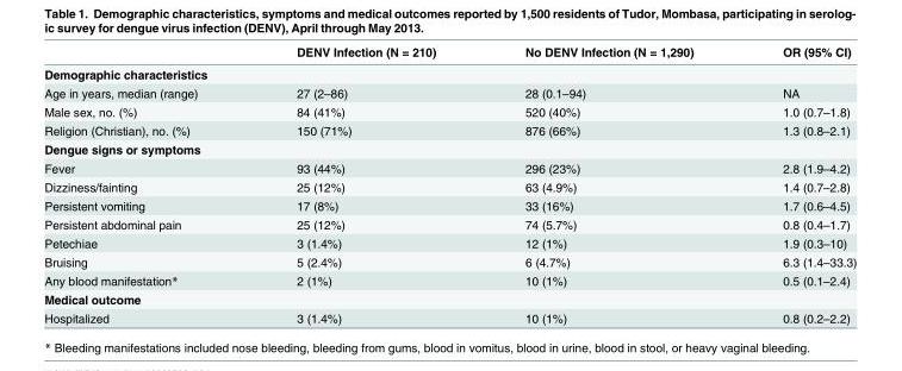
<table><thead><tr><td></td><td>DENV Infection (N = 210)</td><td>No DENV Infection (N = 1,290)</td><td>OR (95% CI)</td></tr></thead><tbody><tr><td colspan="4">Demographic characteristics</td></tr><tr><td>Age in years, median (range)</td><td>27 (2–86)</td><td>28 (0.1–94)</td><td>NA</td></tr><tr><td>Male sex, no. (%)</td><td>84 (41%)</td><td>520 (40%)</td><td>1.0 (0.7–1.8)</td></tr><tr><td>Religion (Christian), no. (%)</td><td>150 (71%)</td><td>876 (66%)</td><td>1.3 (0.8–2.1)</td></tr><tr><td colspan="4">Dengue signs or symptoms</td></tr><tr><td>Fever</td><td>93 (44%)</td><td>296 (23%)</td><td>2.8 (1.9–4.2)</td></tr><tr><td>Dizziness/fainting</td><td>25 (12%)</td><td>63 (4.9%)</td><td>1.4 (0.7–2.8)</td></tr><tr><td>Persistent vomiting</td><td>17 (8%)</td><td>33 (16%)</td><td>1.7 (0.6–4.5)</td></tr><tr><td>Persistent abdominal pain</td><td>25 (12%)</td><td>74 (5.7%)</td><td>0.8 (0.4–1.7)</td></tr><tr><td>Petechiae</td><td>3 (1.4%)</td><td>12 (1%)</td><td>1.9 (0.3–10)</td></tr><tr><td>Bruising</td><td>5 (2.4%)</td><td>6 (4.7%)</td><td>6.3 (1.4–33.3)</td></tr><tr><td>Any blood manifestation*</td><td>2 (1%)</td><td>10 (1%)</td><td>0.5 (0.1–2.4)</td></tr><tr><td colspan="4">Medical outcome</td></tr><tr><td>Hospitalized</td><td>3 (1.4%)</td><td>10 (1%)</td><td>0.8 (0.2–2.2)</td></tr></tbody></table>